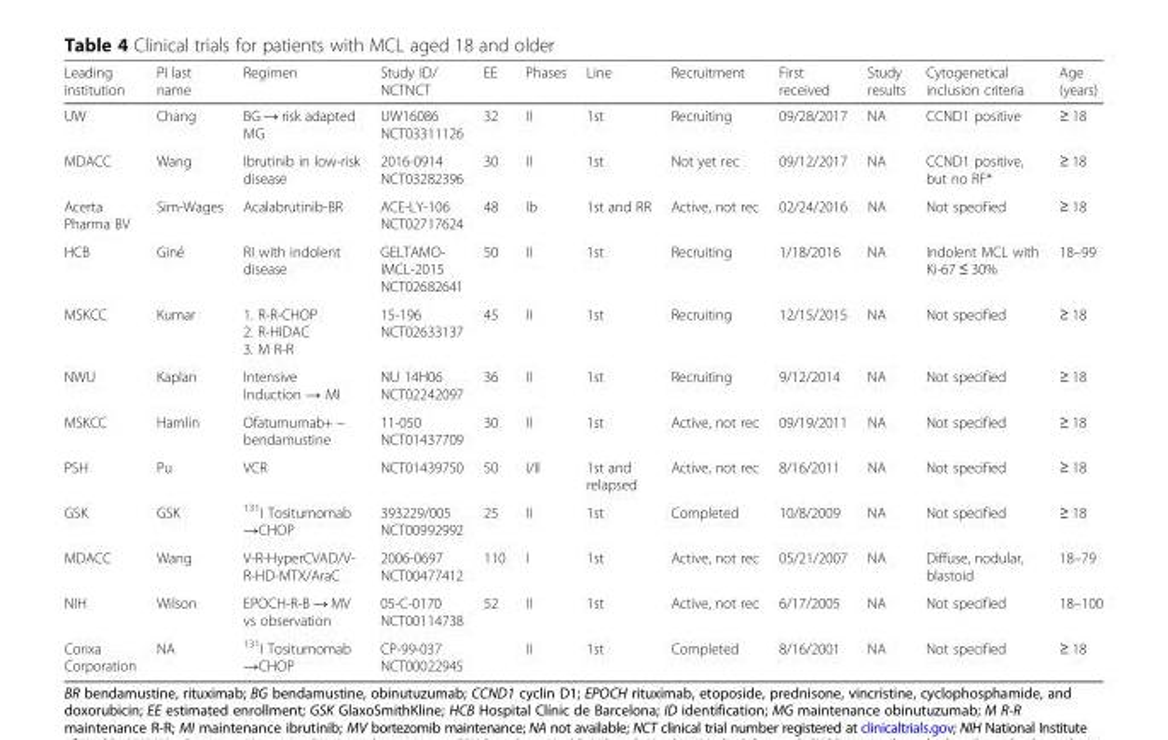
<table><thead><tr><td>Leading institution</td><td>PI last name</td><td>Regimen</td><td>Study ID/ NCTNCT</td><td>EE</td><td>Phases</td><td>Line</td><td>Recruitment</td><td>First received</td><td>Study results</td><td>Cytogenetical inclusion criteria</td><td>Age (years)</td></tr></thead><tbody><tr><td>UW</td><td>Chang</td><td>BG → risk adapted MG</td><td>UW16086 NCT03311126</td><td>32</td><td>II</td><td>1st</td><td>Recruiting</td><td>09/28/2017</td><td>NA</td><td>CCND1 positive</td><td>≥ 18</td></tr><tr><td>MDACC</td><td>Wang</td><td>Ibrutinib in low-risk disease</td><td>2016-0914 NCT03282396</td><td>30</td><td>II</td><td>1st</td><td>Not yet rec</td><td>09/12/2017</td><td>NA</td><td>CCND1 positive, but no RF*</td><td>≥ 18</td></tr><tr><td>Acerta Pharma BV</td><td>Sim-Wages</td><td>Acalabrutinib-BR</td><td>ACE-LY-106 NCT02717624</td><td>48</td><td>Ib</td><td>1st and RR</td><td>Active, not rec</td><td>02/24/2016</td><td>NA</td><td>Not specified</td><td>≥ 18</td></tr><tr><td>HCB</td><td>Giné</td><td>RI with indolent disease</td><td>GELTAMO- IMCL-2015 NCT02682641</td><td>50</td><td>II</td><td>1st</td><td>Recruiting</td><td>1/18/2016</td><td>NA</td><td>Indolent MCL with Ki-67 ≤ 30%</td><td>18–99</td></tr><tr><td>MSKCC</td><td>Kumar</td><td>1. R-R-CHOP 2. R-HIDAC 3. M R-R</td><td>15-196 NCT02633137</td><td>45</td><td>II</td><td>1st</td><td>Recruiting</td><td>12/15/2015</td><td>NA</td><td>Not specified</td><td>≥ 18</td></tr><tr><td>NWU</td><td>Kaplan</td><td>Intensive Induction → MI</td><td>NU 14H06 NCT02242097</td><td>36</td><td>II</td><td>1st</td><td>Recruiting</td><td>9/12/2014</td><td>NA</td><td>Not specified</td><td>≥ 18</td></tr><tr><td>MSKCC</td><td>Hamlin</td><td>Ofatumumab+ − bendamustine</td><td>11-050 NCT01437709</td><td>30</td><td>II</td><td>1st</td><td>Active, not rec</td><td>09/19/2011</td><td>NA</td><td>Not specified</td><td>≥ 18</td></tr><tr><td>PSH</td><td>Pu</td><td>VCR</td><td>NCT01439750</td><td>50</td><td>I/II</td><td>1st and relapsed</td><td>Active, not rec</td><td>8/16/2011</td><td>NA</td><td>Not specified</td><td>≥ 18</td></tr><tr><td>GSK</td><td>GSK</td><td><sup>131</sup>I Tositumomab →CHOP</td><td>393229/005 NCT00992992</td><td>25</td><td>II</td><td>1st</td><td>Completed</td><td>10/8/2009</td><td>NA</td><td>Not specified</td><td>≥ 18</td></tr><tr><td>MDACC</td><td>Wang</td><td>V-R-HyperCVAD/V- R-HD-MTX/AraC</td><td>2006-0697 NCT00477412</td><td>110</td><td>I</td><td>1st</td><td>Active, not rec</td><td>05/21/2007</td><td>NA</td><td>Diffuse, nodular, blastoid</td><td>18–79</td></tr><tr><td>NIH</td><td>Wilson</td><td>EPOCH-R-B → MV vs observation</td><td>05-C-0170 NCT00114738</td><td>52</td><td>II</td><td>1st</td><td>Active, not rec</td><td>6/17/2005</td><td>NA</td><td>Not specified</td><td>18–100</td></tr><tr><td>Corixa Corporation</td><td>NA</td><td><sup>131</sup>I Tositumomab →CHOP</td><td>CP-99-037 NCT00022945</td><td></td><td>II</td><td>1st</td><td>Completed</td><td>8/16/2001</td><td>NA</td><td>Not specified</td><td>≥ 18</td></tr></tbody></table>